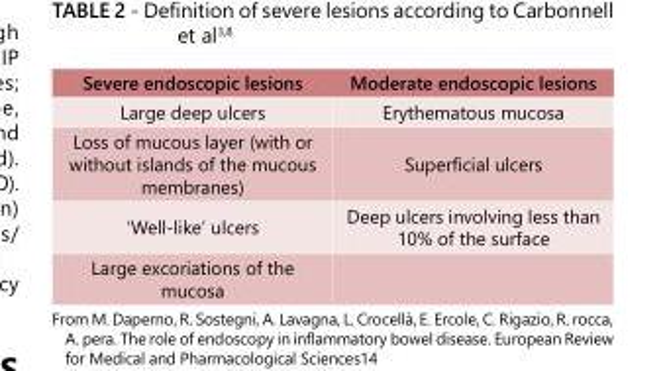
<table><tbody><tr><td>Severe endoscopic lesions</td><td>Moderate endoscopic lesions</td></tr><tr><td>Large deep ulcers</td><td>Erythematous mucosa</td></tr><tr><td>Loss of mucous layer (with or without islands of the mucous membranes)</td><td>Superficial ulcers</td></tr><tr><td>‘Well-like’ ulcers</td><td>Deep ulcers involving less than 10% of the surface</td></tr><tr><td>Large excoriations of the mucosa</td><td></td></tr></tbody></table>